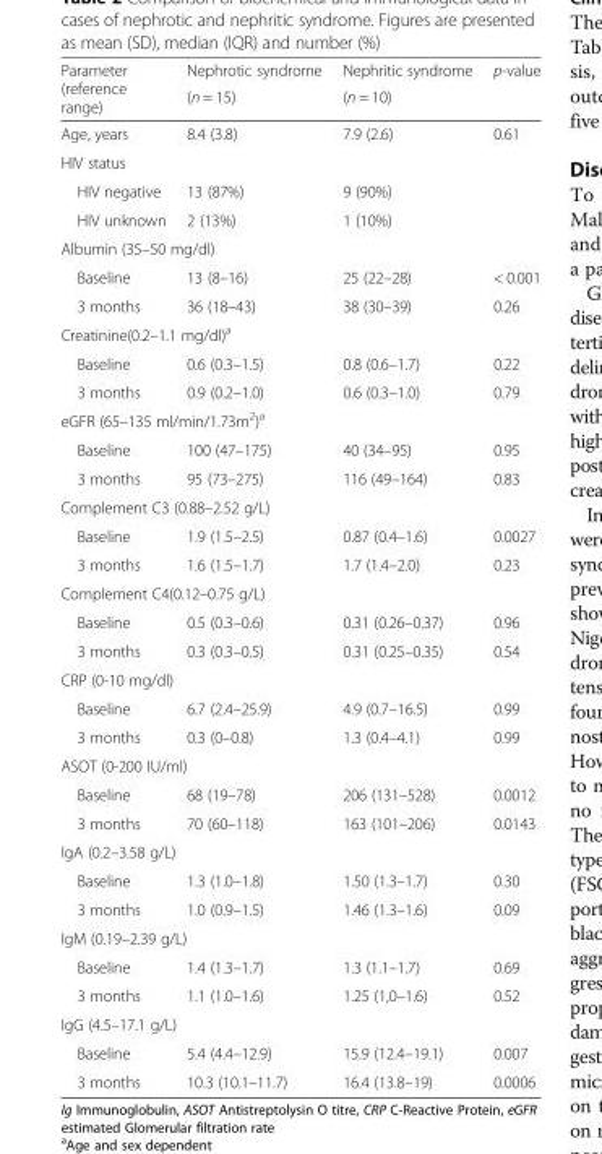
<table><thead><tr><td rowspan="2">Parameter (reference range)</td><td rowspan="2">Nephrotic syndrome (n = 15)</td><td rowspan="2">Nephritic syndrome (n = 10)</td><td rowspan="2">p-value</td></tr><tr></tr></thead><tbody><tr><td>Age, years</td><td>8.4 (3.8)</td><td>7.9 (2.6)</td><td>0.61</td></tr><tr><td colspan="4">HIV status</td></tr><tr><td>HIV negative</td><td>13 (87%)</td><td>9 (90%)</td><td rowspan="2"></td></tr><tr><td>HIV unknown</td><td>2 (13%)</td><td>1 (10%)</td></tr><tr><td colspan="4">Albumin (35–50 mg/dl)</td></tr><tr><td>Baseline</td><td>13 (8–16)</td><td>25 (22–28)</td><td>&lt; 0.001</td></tr><tr><td>3 months</td><td>36 (18–43)</td><td>38 (30–39)</td><td>0.26</td></tr><tr><td colspan="4">Creatinine(0.2–1.1 mg/dl)<sup>a</sup></td></tr><tr><td>Baseline</td><td>0.6 (0.3–1.5)</td><td>0.8 (0.6–1.7)</td><td>0.22</td></tr><tr><td>3 months</td><td>0.9 (0.2–1.0)</td><td>0.6 (0.3–1.0)</td><td>0.79</td></tr><tr><td colspan="4">eGFR (65–135 ml/min/1.73m<sup>2</sup>)<sup>a</sup></td></tr><tr><td>Baseline</td><td>100 (47–175)</td><td>40 (34–95)</td><td>0.95</td></tr><tr><td>3 months</td><td>95 (73–275)</td><td>116 (49–164)</td><td>0.83</td></tr><tr><td colspan="4">Complement C3 (0.88–2.52 g/L)</td></tr><tr><td>Baseline</td><td>1.9 (1.5–2.5)</td><td>0.87 (0.4–1.6)</td><td>0.0027</td></tr><tr><td>3 months</td><td>1.6 (1.5–1.7)</td><td>1.7 (1.4–2.0)</td><td>0.23</td></tr><tr><td colspan="4">Complement C4(0.12–0.75 g/L)</td></tr><tr><td>Baseline</td><td>0.5 (0.3–0.6)</td><td>0.31 (0.26–0.37)</td><td>0.96</td></tr><tr><td>3 months</td><td>0.3 (0.3–0.5)</td><td>0.31 (0.25–0.35)</td><td>0.54</td></tr><tr><td colspan="4">CRP (0-10 mg/dl)</td></tr><tr><td>Baseline</td><td>6.7 (2.4–25.9)</td><td>4.9 (0.7–16.5)</td><td>0.99</td></tr><tr><td>3 months</td><td>0.3 (0–0.8)</td><td>1.3 (0.4–4.1)</td><td>0.99</td></tr><tr><td colspan="4">ASOT (0-200 IU/ml)</td></tr><tr><td>Baseline</td><td>68 (19–78)</td><td>206 (131–528)</td><td>0.0012</td></tr><tr><td>3 months</td><td>70 (60–118)</td><td>163 (101–206)</td><td>0.0143</td></tr><tr><td colspan="4">IgA (0.2–3.58 g/L)</td></tr><tr><td>Baseline</td><td>1.3 (1.0–1.8)</td><td>1.50 (1.3–1.7)</td><td>0.30</td></tr><tr><td>3 months</td><td>1.0 (0.9–1.5)</td><td>1.46 (1.3–1.6)</td><td>0.09</td></tr><tr><td colspan="4">IgM (0.19–2.39 g/L)</td></tr><tr><td>Baseline</td><td>1.4 (1.3–1.7)</td><td>1.3 (1.1–1.7)</td><td>0.69</td></tr><tr><td>3 months</td><td>1.1 (1.0–1.6)</td><td>1.25 (1,0–1.6)</td><td>0.52</td></tr><tr><td colspan="4">IgG (4.5–17.1 g/L)</td></tr><tr><td>Baseline</td><td>5.4 (4.4–12.9)</td><td>15.9 (12.4–19.1)</td><td>0.007</td></tr><tr><td>3 months</td><td>10.3 (10.1–11.7)</td><td>16.4 (13.8–19)</td><td>0.0006</td></tr></tbody></table>